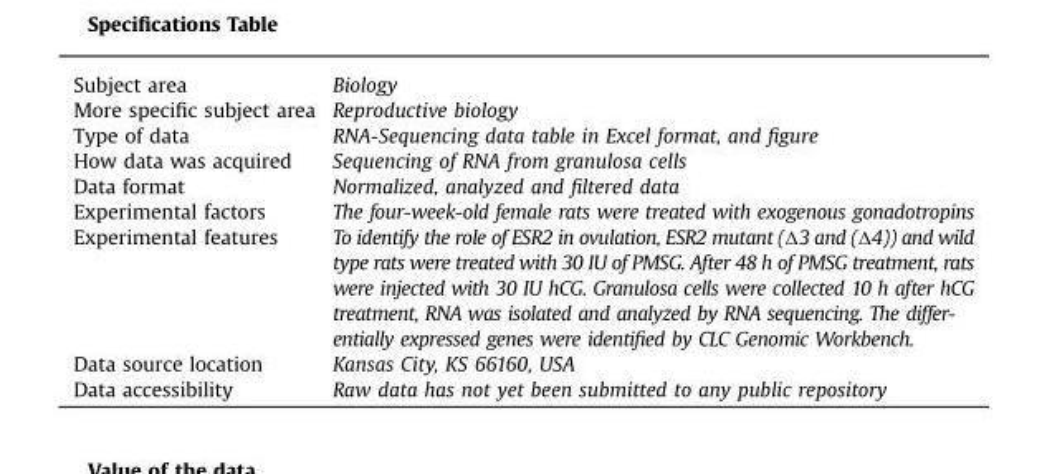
<table><tbody><tr><td>Subject area</td><td>Biology</td></tr><tr><td>More specific subject area</td><td>Reproductive biology</td></tr><tr><td>Type of data</td><td>RNA-Sequencing data table in Excel format, and figure</td></tr><tr><td>How data was acquired</td><td>Sequencing of RNA from granulosa cells</td></tr><tr><td>Data format</td><td>Normalized, analyzed and filtered data</td></tr><tr><td>Experimental factors</td><td>The four-week-old female rats were treated with exogenous gonadotropins</td></tr><tr><td>Experimental features</td><td>To identify the role of ESR2 in ovulation, ESR2 mutant (Δ3 and (Δ4)) and wild type rats were treated with 30 IU of PMSG. After 48 h of PMSG treatment, rats were injected with 30 IU hCG. Granulosa cells were collected 10 h after hCG treatment, RNA was isolated and analyzed by RNA sequencing. The differ- entially expressed genes were identified by CLC Genomic Workbench.</td></tr><tr><td>Data source location</td><td>Kansas City, KS 66160, USA</td></tr><tr><td>Data accessibility</td><td>Raw data has not yet been submitted to any public repository</td></tr></tbody></table>